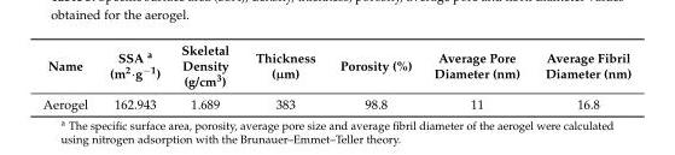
<table><thead><tr><td>Name</td><td>SSA <sup>a</sup> (m<sup>2</sup>·g<sup>−1</sup>)</td><td>Skeletal Density (g/cm<sup>3</sup>)</td><td>Thickness (µm)</td><td>Porosity (%)</td><td>Average Pore Diameter (nm)</td><td>Average Fibril Diameter (nm)</td></tr></thead><tbody><tr><td>Aerogel</td><td>162.943</td><td>1.689</td><td>383</td><td>98.8</td><td>11</td><td>16.8</td></tr></tbody></table>